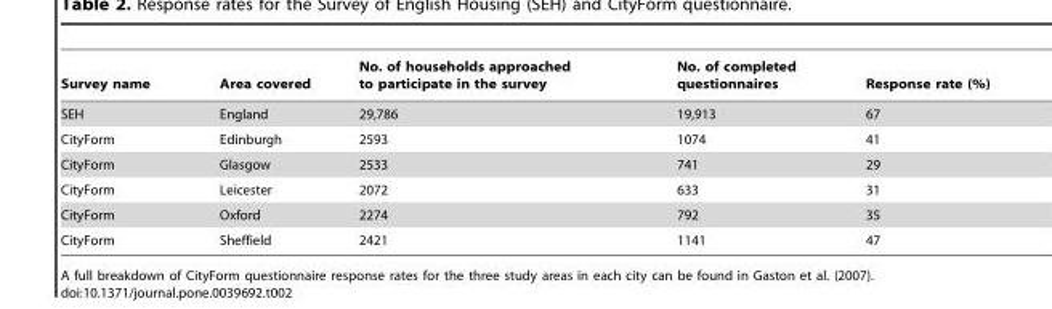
<table><thead><tr><td>Survey name</td><td>Area covered</td><td>No. of households approached to participate in the survey</td><td>No. of completed questionnaires</td><td>Response rate (%)</td></tr></thead><tbody><tr><td>SEH</td><td>England</td><td>29,786</td><td>19,913</td><td>67</td></tr><tr><td>CityForm</td><td>Edinburgh</td><td>2593</td><td>1074</td><td>41</td></tr><tr><td>CityForm</td><td>Glasgow</td><td>2533</td><td>741</td><td>29</td></tr><tr><td>CityForm</td><td>Leicester</td><td>2072</td><td>633</td><td>31</td></tr><tr><td>CityForm</td><td>Oxford</td><td>2274</td><td>792</td><td>35</td></tr><tr><td>CityForm</td><td>Sheffield</td><td>2421</td><td>1141</td><td>47</td></tr></tbody></table>